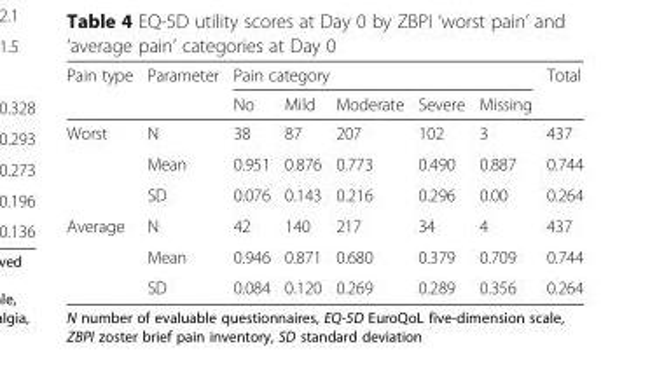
<table><thead><tr><td rowspan="2">Pain type</td><td rowspan="2">Parameter</td><td colspan="5">Pain category</td><td rowspan="2">Total</td></tr><tr><td>No</td><td>Mild</td><td>Moderate</td><td>Severe</td><td>Missing</td></tr></thead><tbody><tr><td rowspan="3">Worst</td><td>N</td><td>38</td><td>87</td><td>207</td><td>102</td><td>3</td><td>437</td></tr><tr><td>Mean</td><td>0.951</td><td>0.876</td><td>0.773</td><td>0.490</td><td>0.887</td><td>0.744</td></tr><tr><td>SD</td><td>0.076</td><td>0.143</td><td>0.216</td><td>0.296</td><td>0.00</td><td>0.264</td></tr><tr><td rowspan="3">Average</td><td>N</td><td>42</td><td>140</td><td>217</td><td>34</td><td>4</td><td>437</td></tr><tr><td>Mean</td><td>0.946</td><td>0.871</td><td>0.680</td><td>0.379</td><td>0.709</td><td>0.744</td></tr><tr><td>SD</td><td>0.084</td><td>0.120</td><td>0.269</td><td>0.289</td><td>0.356</td><td>0.264</td></tr></tbody></table>